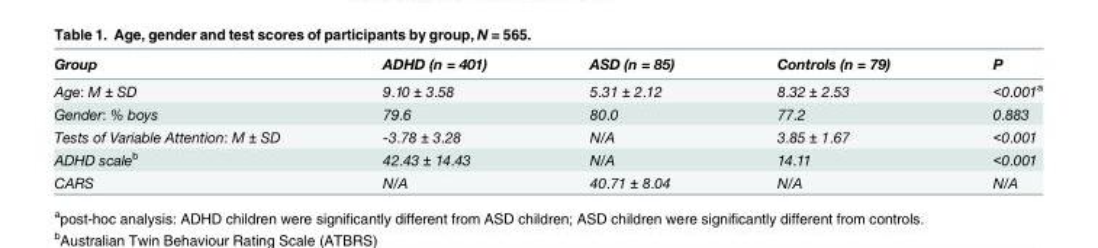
<table><thead><tr><td>Group</td><td>ADHD (n = 401)</td><td>ASD (n = 85)</td><td>Controls (n = 79)</td><td>P</td></tr></thead><tbody><tr><td>Age: M ± SD</td><td>9.10 ± 3.58</td><td>5.31 ± 2.12</td><td>8.32 ± 2.53</td><td>&lt;0.001<sup>a</sup></td></tr><tr><td>Gender: % boys</td><td>79.6</td><td>80.0</td><td>77.2</td><td>0.883</td></tr><tr><td>Tests of Variable Attention: M ± SD</td><td>-3.78 ± 3.28</td><td>N/A</td><td>3.85 ± 1.67</td><td>&lt;0.001</td></tr><tr><td>ADHD scale<sup>b</sup></td><td>42.43 ± 14.43</td><td>N/A</td><td>14.11</td><td>&lt;0.001</td></tr><tr><td>CARS</td><td>N/A</td><td>40.71 ± 8.04</td><td>N/A</td><td>N/A</td></tr></tbody></table>